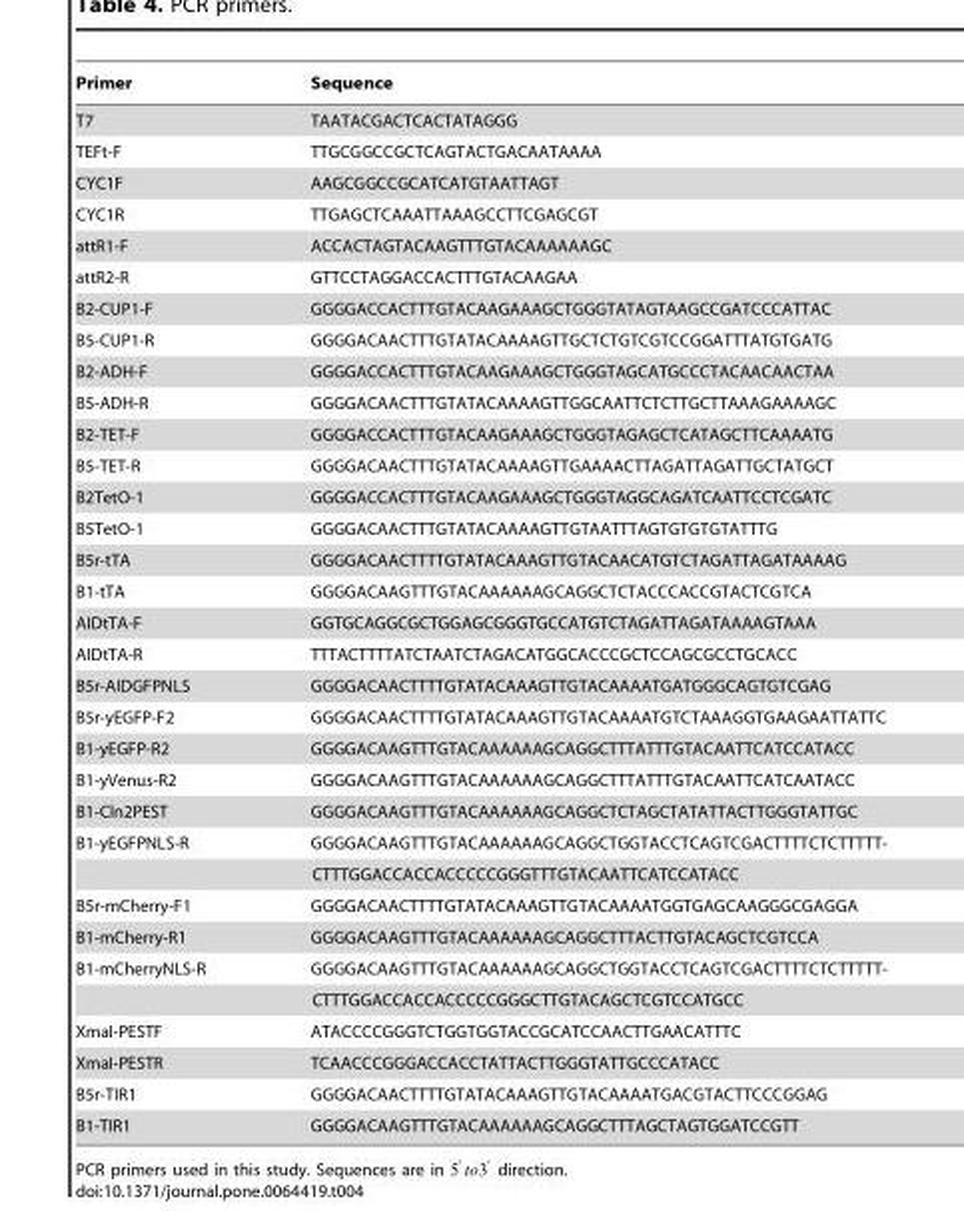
<table><thead><tr><td>Primer</td><td>Sequence</td></tr></thead><tbody><tr><td>T7</td><td>TAATACGACTCACTATAGGG</td></tr><tr><td>TEFt-F</td><td>TTGCGGCCGCTCAGTACTGACAATAAAA</td></tr><tr><td>CYC1F</td><td>AAGCGGCCGCATCATGTAATTAGT</td></tr><tr><td>CYC1R</td><td>TTGAGCTCAAATTAAAGCCTTCGAGCGT</td></tr><tr><td>attR1-F</td><td>ACCACTAGTACAAGTTTGTACAAAAAAGC</td></tr><tr><td>attR2-R</td><td>GTTCCTAGGACCACTTTGTACAAGAA</td></tr><tr><td>B2-CUP1-F</td><td>GGGGACCACTTTGTACAAGAAAGCTGGGTATAGTAAGCCGATCCCATTAC</td></tr><tr><td>B5-CUP1-R</td><td>GGGGACAACTTTGTATACAAAAGTTGCTCTGTCGTCCGGATTTATGTGATG</td></tr><tr><td>B2-ADH-F</td><td>GGGGACCACTTTGTACAAGAAAGCTGGGTAGCATGCCCTACAACAACTAA</td></tr><tr><td>B5-ADH-R</td><td>GGGGACAACTTTGTATACAAAAGTTGGCAATTCTCTTGCTTAAAGAAAAGC</td></tr><tr><td>B2-TET-F</td><td>GGGGACCACTTTGTACAAGAAAGCTGGGTAGAGCTCATAGCTTCAAAATG</td></tr><tr><td>B5-TET-R</td><td>GGGGACAACTTTGTATACAAAAGTTGAAAACTTAGATTAGATTGCTATGCT</td></tr><tr><td>B2TetO-1</td><td>GGGGACCACTTTGTACAAGAAAGCTGGGTAGGCAGATCAATTCCTCGATC</td></tr><tr><td>B5TetO-1</td><td>GGGGACAACTTTGTATACAAAAGTTGTAATTTAGTGTGTGTATTTG</td></tr><tr><td>B5r-tTA</td><td>GGGGACAACTTTTGTATACAAAGTTGTACAACATGTCTAGATTAGATAAAAG</td></tr><tr><td>B1-tTA</td><td>GGGGACAAGTTTGTACAAAAAAGCAGGCTCTACCCACCGTACTCGTCA</td></tr><tr><td>AIDtTA-F</td><td>GGTGCAGGCGCTGGAGCGGGTGCCATGTCTAGATTAGATAAAAGTAAA</td></tr><tr><td>AIDtTA-R</td><td>TTTACTTTTATCTAATCTAGACATGGCACCCGCTCCAGCGCCTGCACC</td></tr><tr><td>B5r-AIDGFPNLS</td><td>GGGGACAACTTTTGTATACAAAGTTGTACAAAATGATGGGCAGTGTCGAG</td></tr><tr><td>B5r-yEGFP-F2</td><td>GGGGACAACTTTTGTATACAAAGTTGTACAAAATGTCTAAAGGTGAAGAATTATTC</td></tr><tr><td>B1-yEGFP-R2</td><td>GGGGACAAGTTTGTACAAAAAAGCAGGCTTTATTTGTACAATTCATCCATACC</td></tr><tr><td>B1-yVenus-R2</td><td>GGGGACAAGTTTGTACAAAAAAGCAGGCTTTATTTGTACAATTCATCAATACC</td></tr><tr><td>B1-Cln2PEST</td><td>GGGGACAAGTTTGTACAAAAAAGCAGGCTCTAGCTATATTACTTGGGTATTGC</td></tr><tr><td>B1-yEGFPNLS-R</td><td>GGGGACAAGTTTGTACAAAAAAGCAGGCTGGTACCTCAGTCGACTTTTCTCTTTTT-</td></tr><tr><td colspan="2">CTTTGGACCACCACCCCCGGGTTTGTACAATTCATCCATACC</td></tr><tr><td>B5r-mCherry-F1</td><td>GGGGACAACTTTTGTATACAAAGTTGTACAAAATGGTGAGCAAGGGCGAGGA</td></tr><tr><td>B1-mCherry-R1</td><td>GGGGACAAGTTTGTACAAAAAAGCAGGCTTTACTTGTACAGCTCGTCCA</td></tr><tr><td>B1-mCherryNLS-R</td><td>GGGGACAAGTTTGTACAAAAAAGCAGGCTGGTACCTCAGTCGACTTTTCTCTTTTT-</td></tr><tr><td colspan="2">CTTTGGACCACCACCCCCGGGCTTGTACAGCTCGTCCATGCC</td></tr><tr><td>XmaI-PESTF</td><td>ATACCCCGGGTCTGGTGGTACCGCATCCAACTTGAACATTTC</td></tr><tr><td>XmaI-PESTR</td><td>TCAACCCGGGACCACCTATTACTTGGGTATTGCCCATACC</td></tr><tr><td>B5r-TIR1</td><td>GGGGACAACTTTTGTATACAAAGTTGTACAAAATGACGTACTTCCCGGAG</td></tr><tr><td>B1-TIR1</td><td>GGGGACAAGTTTGTACAAAAAAGCAGGCTTTAGCTAGTGGATCCGTT</td></tr></tbody></table>